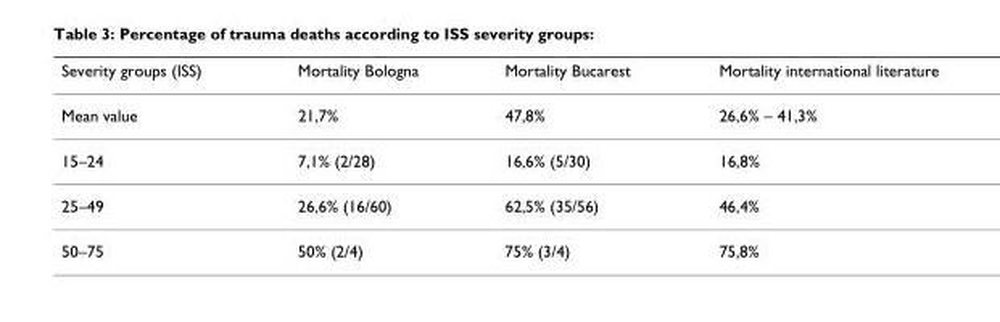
<table><thead><tr><td>Severity groups (ISS)</td><td>Mortality Bologna</td><td>Mortality Bucarest</td><td>Mortality international literature</td></tr></thead><tbody><tr><td>Mean value</td><td>21,7%</td><td>47,8%</td><td>26,6% – 41,3%</td></tr><tr><td>15–24</td><td>7,1% (2/28)</td><td>16,6% (5/30)</td><td>16,8%</td></tr><tr><td>25–49</td><td>26,6% (16/60)</td><td>62,5% (35/56)</td><td>46,4%</td></tr><tr><td>50–75</td><td>50% (2/4)</td><td>75% (3/4)</td><td>75,8%</td></tr></tbody></table>